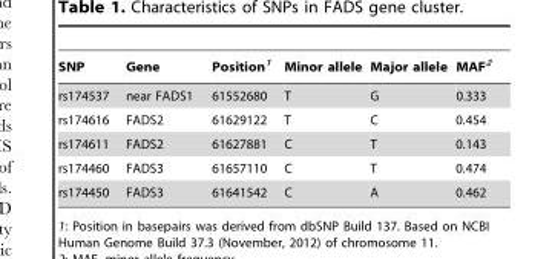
<table><thead><tr><td>SNP</td><td>Gene</td><td>Position<sup>1</sup></td><td>Minor allele</td><td>Major allele</td><td>MAF<sup>2</sup></td></tr></thead><tbody><tr><td>rs174537</td><td>near FADS1</td><td>61552680</td><td>T</td><td>G</td><td>0.333</td></tr><tr><td>rs174616</td><td>FADS2</td><td>61629122</td><td>T</td><td>C</td><td>0.454</td></tr><tr><td>rs174611</td><td>FADS2</td><td>61627881</td><td>C</td><td>T</td><td>0.143</td></tr><tr><td>rs174460</td><td>FADS3</td><td>61657110</td><td>C</td><td>T</td><td>0.474</td></tr><tr><td>rs174450</td><td>FADS3</td><td>61641542</td><td>C</td><td>A</td><td>0.462</td></tr></tbody></table>